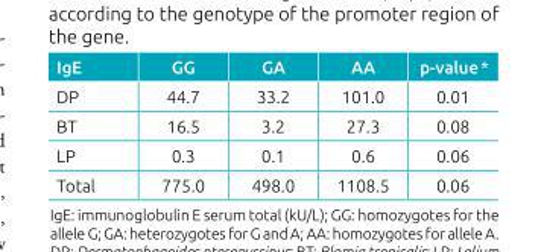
<table><thead><tr><td>IgE</td><td>GG</td><td>GA</td><td>AA</td><td>p‑value*</td></tr></thead><tbody><tr><td>DP</td><td>44.7</td><td>33.2</td><td>101.0</td><td>0.01</td></tr><tr><td>BT</td><td>16.5</td><td>3.2</td><td>27.3</td><td>0.08</td></tr><tr><td>LP</td><td>0.3</td><td>0.1</td><td>0.6</td><td>0.06</td></tr><tr><td>Total</td><td>775.0</td><td>498.0</td><td>1108.5</td><td>0.06</td></tr></tbody></table>